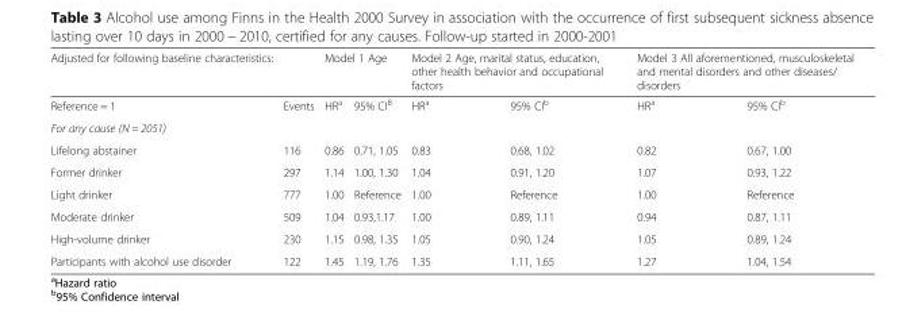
<table><thead><tr><td rowspan="2">Adjusted for following baseline characteristics: Reference = 1</td><td rowspan="2">Events</td><td colspan="2">Model 1 Age</td><td colspan="2">Model 2 Age, marital status, education, other health behavior and occupational factors</td><td colspan="2">Model 3 All aforementioned, musculoskeletal and mental disorders and other diseases/ disorders</td></tr><tr><td>HR<sup>a</sup></td><td>95% CI<sup>B</sup></td><td>HR<sup>a</sup></td><td>95% CI<sup>b</sup></td><td>HR<sup>a</sup></td><td>95% CI<sup>b</sup></td></tr></thead><tbody><tr><td colspan="8">For any cause (N = 2051)</td></tr><tr><td>Lifelong abstainer</td><td>116</td><td>0.86</td><td>0.71, 1.05</td><td>0.83</td><td>0.68, 1.02</td><td>0.82</td><td>0.67, 1.00</td></tr><tr><td>Former drinker</td><td>297</td><td>1.14</td><td>1.00, 1.30</td><td>1.04</td><td>0.91, 1.20</td><td>1.07</td><td>0.93, 1.22</td></tr><tr><td>Light drinker</td><td>777</td><td>1.00</td><td>Reference</td><td>1.00</td><td>Reference</td><td>1.00</td><td>Reference</td></tr><tr><td>Moderate drinker</td><td>509</td><td>1.04</td><td>0.93,1.17</td><td>1.00</td><td>0.89, 1.11</td><td>0.94</td><td>0.87, 1.11</td></tr><tr><td>High-volume drinker</td><td>230</td><td>1.15</td><td>0.98, 1.35</td><td>1.05</td><td>0.90, 1.24</td><td>1.05</td><td>0.89, 1.24</td></tr><tr><td>Participants with alcohol use disorder</td><td>122</td><td>1.45</td><td>1.19, 1.76</td><td>1.35</td><td>1.11, 1.65</td><td>1.27</td><td>1.04, 1.54</td></tr></tbody></table>